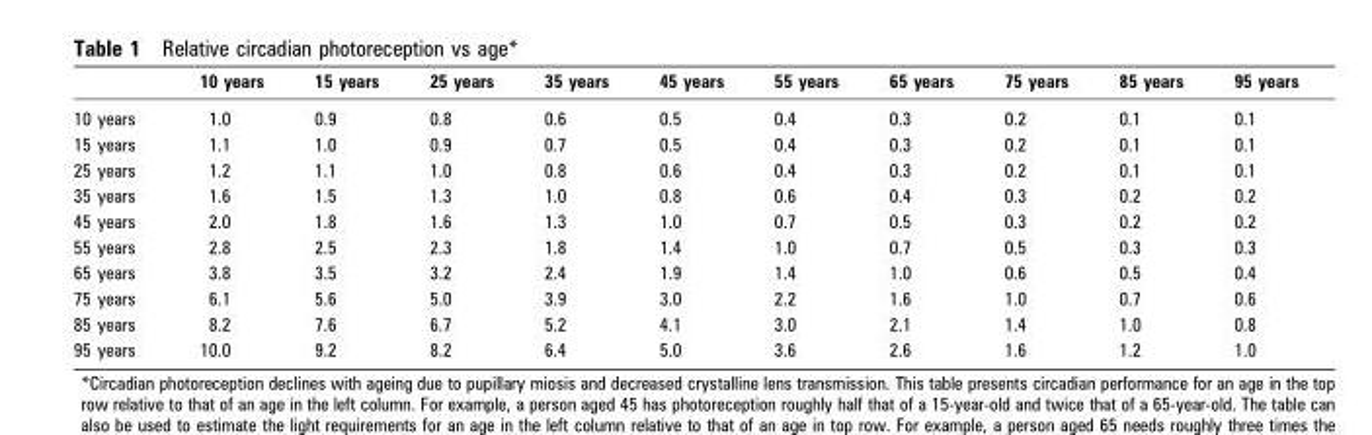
<table><thead><tr><td></td><td>10 years</td><td>15 years</td><td>25 years</td><td>35 years</td><td>45 years</td><td>55 years</td><td>65 years</td><td>75 years</td><td>85 years</td><td>95 years</td></tr></thead><tbody><tr><td>10 years</td><td>1.0</td><td>0.9</td><td>0.8</td><td>0.6</td><td>0.5</td><td>0.4</td><td>0.3</td><td>0.2</td><td>0.1</td><td>0.1</td></tr><tr><td>15 years</td><td>1.1</td><td>1.0</td><td>0.9</td><td>0.7</td><td>0.5</td><td>0.4</td><td>0.3</td><td>0.2</td><td>0.1</td><td>0.1</td></tr><tr><td>25 years</td><td>1.2</td><td>1.1</td><td>1.0</td><td>0.8</td><td>0.6</td><td>0.4</td><td>0.3</td><td>0.2</td><td>0.1</td><td>0.1</td></tr><tr><td>35 years</td><td>1.6</td><td>1.5</td><td>1.3</td><td>1.0</td><td>0.8</td><td>0.6</td><td>0.4</td><td>0.3</td><td>0.2</td><td>0.2</td></tr><tr><td>45 years</td><td>2.0</td><td>1.8</td><td>1.6</td><td>1.3</td><td>1.0</td><td>0.7</td><td>0.5</td><td>0.3</td><td>0.2</td><td>0.2</td></tr><tr><td>55 years</td><td>2.8</td><td>2.5</td><td>2.3</td><td>1.8</td><td>1.4</td><td>1.0</td><td>0.7</td><td>0.5</td><td>0.3</td><td>0.3</td></tr><tr><td>65 years</td><td>3.8</td><td>3.5</td><td>3.2</td><td>2.4</td><td>1.9</td><td>1.4</td><td>1.0</td><td>0.6</td><td>0.5</td><td>0.4</td></tr><tr><td>75 years</td><td>6.1</td><td>5.6</td><td>5.0</td><td>3.9</td><td>3.0</td><td>2.2</td><td>1.6</td><td>1.0</td><td>0.7</td><td>0.6</td></tr><tr><td>85 years</td><td>8.2</td><td>7.6</td><td>6.7</td><td>5.2</td><td>4.1</td><td>3.0</td><td>2.1</td><td>1.4</td><td>1.0</td><td>0.8</td></tr><tr><td>95 years</td><td>10.0</td><td>9.2</td><td>8.2</td><td>6.4</td><td>5.0</td><td>3.6</td><td>2.6</td><td>1.6</td><td>1.2</td><td>1.0</td></tr></tbody></table>